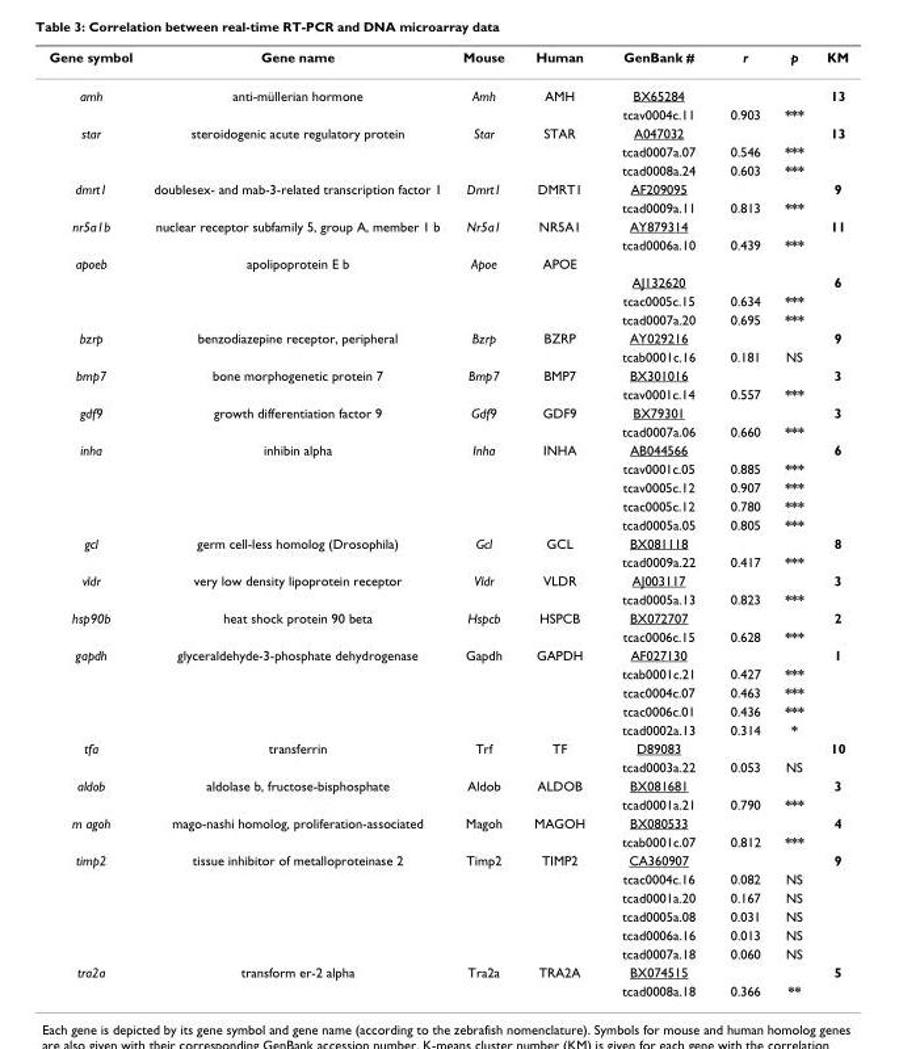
<table><thead><tr><td>Gene symbol</td><td>Gene name</td><td>Mouse</td><td>Human</td><td>GenBank #</td><td>r</td><td>p</td><td>KM</td></tr></thead><tbody><tr><td rowspan="2">amh</td><td>anti-müllerian hormone</td><td>Amh</td><td>AMH</td><td>BX65284</td><td></td><td></td><td>13</td></tr><tr><td></td><td></td><td></td><td>tcav0004c.11</td><td>0.903</td><td>***</td><td></td></tr><tr><td rowspan="3">star</td><td>steroidogenic acute regulatory protein</td><td>Star</td><td>STAR</td><td>A047032</td><td></td><td></td><td>13</td></tr><tr><td></td><td></td><td></td><td>tcad0007a.07</td><td>0.546</td><td>***</td><td></td></tr><tr><td></td><td></td><td></td><td>tcad0008a.24</td><td>0.603</td><td>***</td><td></td></tr><tr><td rowspan="2">dmrt1</td><td>doublesex- and mab-3-related transcription factor 1</td><td>Dmrt1</td><td>DMRT1</td><td>AF209095</td><td></td><td></td><td>9</td></tr><tr><td></td><td></td><td></td><td>tcad0009a.11</td><td>0.813</td><td>***</td><td></td></tr><tr><td rowspan="2">nr5a1b</td><td>nuclear receptor subfamily 5, group A, member 1 b</td><td>Nr5a1</td><td>NR5A1</td><td>AY879314</td><td></td><td></td><td>11</td></tr><tr><td></td><td></td><td></td><td>tcad0006a.10</td><td>0.439</td><td>***</td><td></td></tr><tr><td rowspan="4">apoeb</td><td>apolipoprotein E b</td><td>Apoe</td><td>APOE</td><td></td><td></td><td></td><td></td></tr><tr><td></td><td></td><td></td><td>AJ132620</td><td></td><td></td><td>6</td></tr><tr><td></td><td></td><td></td><td>tcac0005c.15</td><td>0.634</td><td>***</td><td></td></tr><tr><td></td><td></td><td></td><td>tcad0007a.20</td><td>0.695</td><td>***</td><td></td></tr><tr><td rowspan="2">bzrp</td><td>benzodiazepine receptor, peripheral</td><td>Bzrp</td><td>BZRP</td><td>AY029216</td><td></td><td></td><td>9</td></tr><tr><td></td><td></td><td></td><td>tcab0001c.16</td><td>0.181</td><td>NS</td><td></td></tr><tr><td rowspan="2">bmp7</td><td>bone morphogenetic protein 7</td><td>Bmp7</td><td>BMP7</td><td>BX301016</td><td></td><td></td><td>3</td></tr><tr><td></td><td></td><td></td><td>tcav0001c.14</td><td>0.557</td><td>***</td><td></td></tr><tr><td rowspan="2">gdf9</td><td>growth differentiation factor 9</td><td>Gdf9</td><td>GDF9</td><td>BX79301</td><td></td><td></td><td>3</td></tr><tr><td></td><td></td><td></td><td>tcad0007a.06</td><td>0.660</td><td>***</td><td></td></tr><tr><td rowspan="5">inha</td><td>inhibin alpha</td><td>Inha</td><td>INHA</td><td>AB044566</td><td></td><td></td><td>6</td></tr><tr><td></td><td></td><td></td><td>tcav0001c.05</td><td>0.885</td><td>***</td><td></td></tr><tr><td></td><td></td><td></td><td>tcav0005c.12</td><td>0.907</td><td>***</td><td></td></tr><tr><td></td><td></td><td></td><td>tcac0005c.12</td><td>0.780</td><td>***</td><td></td></tr><tr><td></td><td></td><td></td><td>tcad0005a.05</td><td>0.805</td><td>***</td><td></td></tr><tr><td rowspan="2">gcl</td><td>germ cell-less homolog (Drosophila)</td><td>Gcl</td><td>GCL</td><td>BX081118</td><td></td><td></td><td>8</td></tr><tr><td></td><td></td><td></td><td>tcad0009a.22</td><td>0.417</td><td>***</td><td></td></tr><tr><td rowspan="2">vldr</td><td>very low density lipoprotein receptor</td><td>Vldr</td><td>VLDR</td><td>AJ003117</td><td></td><td></td><td>3</td></tr><tr><td></td><td></td><td></td><td>tcad0005a.13</td><td>0.823</td><td>***</td><td></td></tr><tr><td rowspan="2">hsp90b</td><td>heat shock protein 90 beta</td><td>Hspcb</td><td>HSPCB</td><td>BX072707</td><td></td><td></td><td>2</td></tr><tr><td></td><td></td><td></td><td>tcac0006c.15</td><td>0.628</td><td>***</td><td></td></tr><tr><td rowspan="5">gapdh</td><td>glyceraldehyde-3-phosphate dehydrogenase</td><td>Gapdh</td><td>GAPDH</td><td>AF027130</td><td></td><td></td><td>1</td></tr><tr><td></td><td></td><td></td><td>tcab0001c.21</td><td>0.427</td><td>***</td><td></td></tr><tr><td></td><td></td><td></td><td>tcac0004c.07</td><td>0.463</td><td>***</td><td></td></tr><tr><td></td><td></td><td></td><td>tcac0006c.01</td><td>0.436</td><td>***</td><td></td></tr><tr><td></td><td></td><td></td><td>tcad0002a.13</td><td>0.314</td><td>*</td><td></td></tr><tr><td rowspan="2">tfa</td><td>transferrin</td><td>Trf</td><td>TF</td><td>D89083</td><td></td><td></td><td>10</td></tr><tr><td></td><td></td><td></td><td>tcad0003a.22</td><td>0.053</td><td>NS</td><td></td></tr><tr><td rowspan="2">aldob</td><td>aldolase b, fructose-bisphosphate</td><td>Aldob</td><td>ALDOB</td><td>BX081681</td><td></td><td></td><td>3</td></tr><tr><td></td><td></td><td></td><td>tcad0001a.21</td><td>0.790</td><td>***</td><td></td></tr><tr><td rowspan="2">m agoh</td><td>mago-nashi homolog, proliferation-associated</td><td>Magoh</td><td>MAGOH</td><td>BX080533</td><td></td><td></td><td>4</td></tr><tr><td></td><td></td><td></td><td>tcab0001c.07</td><td>0.812</td><td>***</td><td></td></tr><tr><td rowspan="6">timp2</td><td>tissue inhibitor of metalloproteinase 2</td><td>Timp2</td><td>TIMP2</td><td>CA360907</td><td></td><td></td><td>9</td></tr><tr><td></td><td></td><td></td><td>tcac0004c.16</td><td>0.082</td><td>NS</td><td></td></tr><tr><td></td><td></td><td></td><td>tcad0001a.20</td><td>0.167</td><td>NS</td><td></td></tr><tr><td></td><td></td><td></td><td>tcad0005a.08</td><td>0.031</td><td>NS</td><td></td></tr><tr><td></td><td></td><td></td><td>tcad0006a.16</td><td>0.013</td><td>NS</td><td></td></tr><tr><td></td><td></td><td></td><td>tcad0007a.18</td><td>0.060</td><td>NS</td><td></td></tr><tr><td rowspan="2">tra2a</td><td>transform er-2 alpha</td><td>Tra2a</td><td>TRA2A</td><td>BX074515</td><td></td><td></td><td>5</td></tr><tr><td></td><td></td><td></td><td>tcad0008a.18</td><td>0.366</td><td>**</td><td></td></tr></tbody></table>